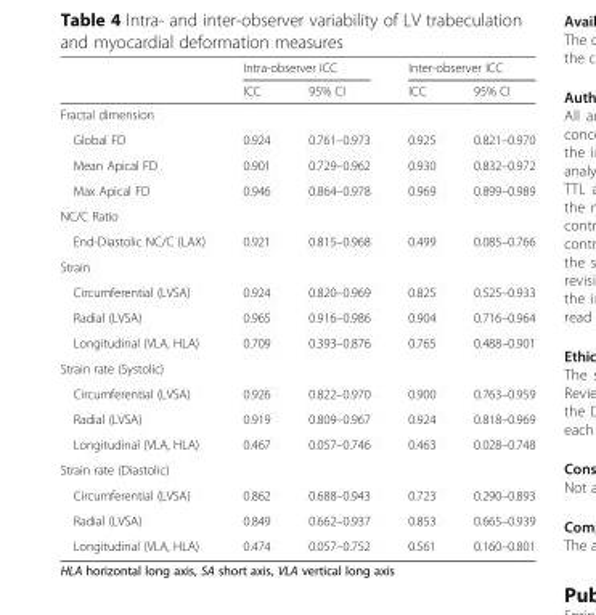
<table><thead><tr><td rowspan="2"></td><td colspan="2">Intra-observer ICC</td><td colspan="2">Inter-observer ICC</td></tr><tr><td>ICC</td><td>95% CI</td><td>ICC</td><td>95% CI</td></tr></thead><tbody><tr><td colspan="5">Fractal dimension</td></tr><tr><td>Global FD</td><td>0.924</td><td>0.761–0.973</td><td>0.925</td><td>0.821–0.970</td></tr><tr><td>Mean Apical FD</td><td>0.901</td><td>0.729–0.962</td><td>0.930</td><td>0.832–0.972</td></tr><tr><td>Max Apical FD</td><td>0.946</td><td>0.864–0.978</td><td>0.969</td><td>0.899–0.989</td></tr><tr><td colspan="5">NC/C Ratio</td></tr><tr><td>End-Diastolic NC/C (LAX)</td><td>0.921</td><td>0.815–0.968</td><td>0.499</td><td>0.085–0.766</td></tr><tr><td colspan="5">Strain</td></tr><tr><td>Circumferential (LVSA)</td><td>0.924</td><td>0.820–0.969</td><td>0.825</td><td>0.525–0.933</td></tr><tr><td>Radial (LVSA)</td><td>0.965</td><td>0.916–0.986</td><td>0.904</td><td>0.716–0.964</td></tr><tr><td>Longitudinal (VLA, HLA)</td><td>0.709</td><td>0.393–0.876</td><td>0.765</td><td>0.488–0.901</td></tr><tr><td colspan="5">Strain rate (Systolic)</td></tr><tr><td>Circumferential (LVSA)</td><td>0.926</td><td>0.822–0.970</td><td>0.900</td><td>0.763–0.959</td></tr><tr><td>Radial (LVSA)</td><td>0.919</td><td>0.809–0.967</td><td>0.924</td><td>0.818–0.969</td></tr><tr><td>Longitudinal (VLA, HLA)</td><td>0.467</td><td>0.057–0.746</td><td>0.463</td><td>0.028–0.748</td></tr><tr><td colspan="5">Strain rate (Diastolic)</td></tr><tr><td>Circumferential (LVSA)</td><td>0.862</td><td>0.688–0.943</td><td>0.723</td><td>0.290–0.893</td></tr><tr><td>Radial (LVSA)</td><td>0.849</td><td>0.662–0.937</td><td>0.853</td><td>0.665–0.939</td></tr><tr><td>Longitudinal (VLA, HLA)</td><td>0.474</td><td>0.057–0.752</td><td>0.561</td><td>0.160–0.801</td></tr></tbody></table>